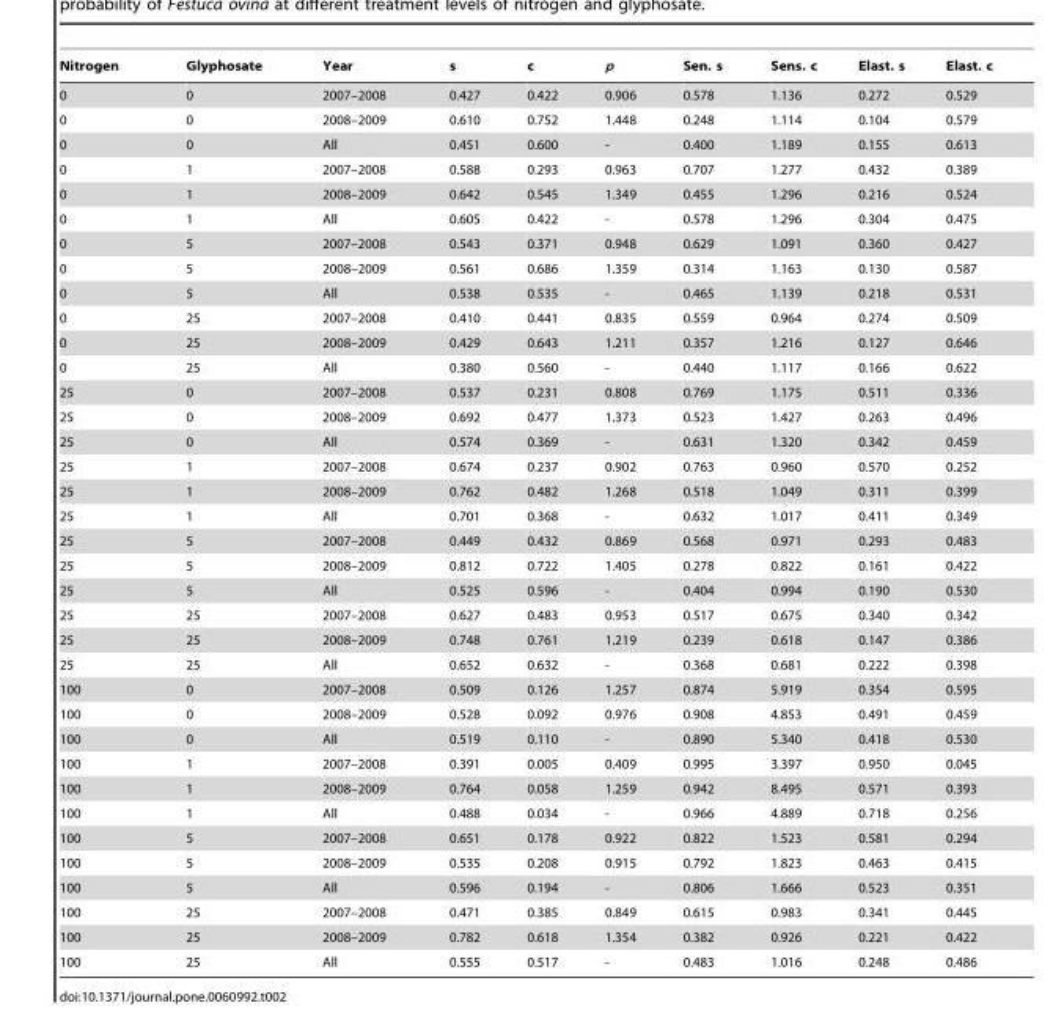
<table><thead><tr><td>Nitrogen</td><td>Glyphosate</td><td>Year</td><td>s</td><td>c</td><td>p</td><td>Sen. s</td><td>Sens. c</td><td>Elast. s</td><td>Elast. c</td></tr></thead><tbody><tr><td>0</td><td>0</td><td>2007–2008</td><td>0.427</td><td>0.422</td><td>0.906</td><td>0.578</td><td>1.136</td><td>0.272</td><td>0.529</td></tr><tr><td>0</td><td>0</td><td>2008–2009</td><td>0.610</td><td>0.752</td><td>1.448</td><td>0.248</td><td>1.114</td><td>0.104</td><td>0.579</td></tr><tr><td>0</td><td>0</td><td>All</td><td>0.451</td><td>0.600</td><td>-</td><td>0.400</td><td>1.189</td><td>0.155</td><td>0.613</td></tr><tr><td>0</td><td>1</td><td>2007–2008</td><td>0.588</td><td>0.293</td><td>0.963</td><td>0.707</td><td>1.277</td><td>0.432</td><td>0.389</td></tr><tr><td>0</td><td>1</td><td>2008–2009</td><td>0.642</td><td>0.545</td><td>1.349</td><td>0.455</td><td>1.296</td><td>0.216</td><td>0.524</td></tr><tr><td>0</td><td>1</td><td>All</td><td>0.605</td><td>0.422</td><td>-</td><td>0.578</td><td>1.296</td><td>0.304</td><td>0.475</td></tr><tr><td>0</td><td>5</td><td>2007–2008</td><td>0.543</td><td>0.371</td><td>0.948</td><td>0.629</td><td>1.091</td><td>0.360</td><td>0.427</td></tr><tr><td>0</td><td>5</td><td>2008–2009</td><td>0.561</td><td>0.686</td><td>1.359</td><td>0.314</td><td>1.163</td><td>0.130</td><td>0.587</td></tr><tr><td>0</td><td>5</td><td>All</td><td>0.538</td><td>0.535</td><td>-</td><td>0.465</td><td>1.139</td><td>0.218</td><td>0.531</td></tr><tr><td>0</td><td>25</td><td>2007–2008</td><td>0.410</td><td>0.441</td><td>0.835</td><td>0.559</td><td>0.964</td><td>0.274</td><td>0.509</td></tr><tr><td>0</td><td>25</td><td>2008–2009</td><td>0.429</td><td>0.643</td><td>1.211</td><td>0.357</td><td>1.216</td><td>0.127</td><td>0.646</td></tr><tr><td>0</td><td>25</td><td>All</td><td>0.380</td><td>0.560</td><td>-</td><td>0.440</td><td>1.117</td><td>0.166</td><td>0.622</td></tr><tr><td>25</td><td>0</td><td>2007–2008</td><td>0.537</td><td>0.231</td><td>0.808</td><td>0.769</td><td>1.175</td><td>0.511</td><td>0.336</td></tr><tr><td>25</td><td>0</td><td>2008–2009</td><td>0.692</td><td>0.477</td><td>1.373</td><td>0.523</td><td>1.427</td><td>0.263</td><td>0.496</td></tr><tr><td>25</td><td>0</td><td>All</td><td>0.574</td><td>0.369</td><td>-</td><td>0.631</td><td>1.320</td><td>0.342</td><td>0.459</td></tr><tr><td>25</td><td>1</td><td>2007–2008</td><td>0.674</td><td>0.237</td><td>0.902</td><td>0.763</td><td>0.960</td><td>0.570</td><td>0.252</td></tr><tr><td>25</td><td>1</td><td>2008–2009</td><td>0.762</td><td>0.482</td><td>1.268</td><td>0.518</td><td>1.049</td><td>0.311</td><td>0.399</td></tr><tr><td>25</td><td>1</td><td>All</td><td>0.701</td><td>0.368</td><td>-</td><td>0.632</td><td>1.017</td><td>0.411</td><td>0.349</td></tr><tr><td>25</td><td>5</td><td>2007–2008</td><td>0.449</td><td>0.432</td><td>0.869</td><td>0.568</td><td>0.971</td><td>0.293</td><td>0.483</td></tr><tr><td>25</td><td>5</td><td>2008–2009</td><td>0.812</td><td>0.722</td><td>1.405</td><td>0.278</td><td>0.822</td><td>0.161</td><td>0.422</td></tr><tr><td>25</td><td>5</td><td>All</td><td>0.525</td><td>0.596</td><td>-</td><td>0.404</td><td>0.994</td><td>0.190</td><td>0.530</td></tr><tr><td>25</td><td>25</td><td>2007–2008</td><td>0.627</td><td>0.483</td><td>0.953</td><td>0.517</td><td>0.675</td><td>0.340</td><td>0.342</td></tr><tr><td>25</td><td>25</td><td>2008–2009</td><td>0.748</td><td>0.761</td><td>1.219</td><td>0.239</td><td>0.618</td><td>0.147</td><td>0.386</td></tr><tr><td>25</td><td>25</td><td>All</td><td>0.652</td><td>0.632</td><td>-</td><td>0.368</td><td>0.681</td><td>0.222</td><td>0.398</td></tr><tr><td>100</td><td>0</td><td>2007–2008</td><td>0.509</td><td>0.126</td><td>1.257</td><td>0.874</td><td>5.919</td><td>0.354</td><td>0.595</td></tr><tr><td>100</td><td>0</td><td>2008–2009</td><td>0.528</td><td>0.092</td><td>0.976</td><td>0.908</td><td>4.853</td><td>0.491</td><td>0.459</td></tr><tr><td>100</td><td>0</td><td>All</td><td>0.519</td><td>0.110</td><td>-</td><td>0.890</td><td>5.340</td><td>0.418</td><td>0.530</td></tr><tr><td>100</td><td>1</td><td>2007–2008</td><td>0.391</td><td>0.005</td><td>0.409</td><td>0.995</td><td>3.397</td><td>0.950</td><td>0.045</td></tr><tr><td>100</td><td>1</td><td>2008–2009</td><td>0.764</td><td>0.058</td><td>1.259</td><td>0.942</td><td>8.495</td><td>0.571</td><td>0.393</td></tr><tr><td>100</td><td>1</td><td>All</td><td>0.488</td><td>0.034</td><td>-</td><td>0.966</td><td>4.889</td><td>0.718</td><td>0.256</td></tr><tr><td>100</td><td>5</td><td>2007–2008</td><td>0.651</td><td>0.178</td><td>0.922</td><td>0.822</td><td>1.523</td><td>0.581</td><td>0.294</td></tr><tr><td>100</td><td>5</td><td>2008–2009</td><td>0.535</td><td>0.208</td><td>0.915</td><td>0.792</td><td>1.823</td><td>0.463</td><td>0.415</td></tr><tr><td>100</td><td>5</td><td>All</td><td>0.596</td><td>0.194</td><td>-</td><td>0.806</td><td>1.666</td><td>0.523</td><td>0.351</td></tr><tr><td>100</td><td>25</td><td>2007–2008</td><td>0.471</td><td>0.385</td><td>0.849</td><td>0.615</td><td>0.983</td><td>0.341</td><td>0.445</td></tr><tr><td>100</td><td>25</td><td>2008–2009</td><td>0.782</td><td>0.618</td><td>1.354</td><td>0.382</td><td>0.926</td><td>0.221</td><td>0.422</td></tr><tr><td>100</td><td>25</td><td>All</td><td>0.555</td><td>0.517</td><td>-</td><td>0.483</td><td>1.016</td><td>0.248</td><td>0.486</td></tr></tbody></table>